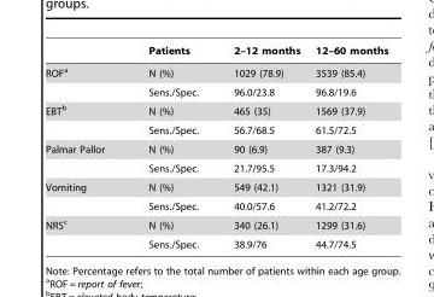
<table><thead><tr><td></td><td>Patients</td><td>2–12 months</td><td>12–60 months</td></tr></thead><tbody><tr><td rowspan="2">ROF<sup>a</sup></td><td>N (%)</td><td>1029 (78.9)</td><td>3539 (85.4)</td></tr><tr><td>Sens./Spec.</td><td>96.0/23.8</td><td>96.8/19.6</td></tr><tr><td rowspan="2">EBT<sup>b</sup></td><td>N (%)</td><td>465 (35)</td><td>1569 (37.9)</td></tr><tr><td>Sens./Spec.</td><td>56.7/68.5</td><td>61.5/72.5</td></tr><tr><td rowspan="2">Palmar Pallor</td><td>N (%)</td><td>90 (6.9)</td><td>387 (9.3)</td></tr><tr><td>Sens./Spec.</td><td>21.7/95.5</td><td>17.3/94.2</td></tr><tr><td rowspan="2">Vomiting</td><td>N (%)</td><td>549 (42.1)</td><td>1321 (31.9)</td></tr><tr><td>Sens./Spec.</td><td>40.0/57.6</td><td>41.2/72.2</td></tr><tr><td rowspan="2">NRS<sup>c</sup></td><td>N (%)</td><td>340 (26.1)</td><td>1299 (31.6)</td></tr><tr><td>Sens./Spec.</td><td>38.9/76</td><td>44.7/74.5</td></tr></tbody></table>